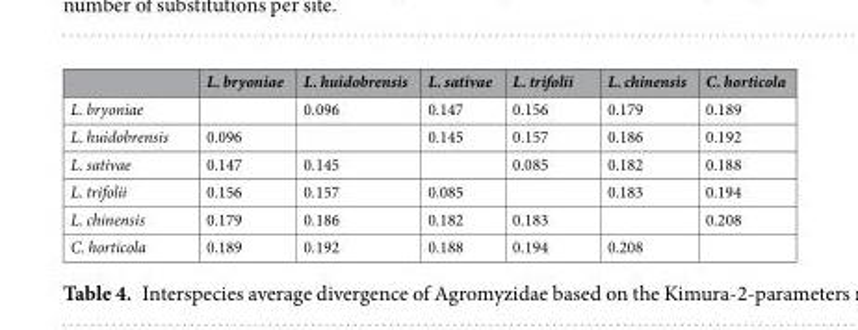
<table><thead><tr><td></td><td>L. bryoniae</td><td>L. huidobrensis</td><td>L. sativae</td><td>L. trifolii</td><td>L. chinensis</td><td>C. horticola</td></tr></thead><tbody><tr><td>L. bryoniae</td><td></td><td>0.096</td><td>0.147</td><td>0.156</td><td>0.179</td><td>0.189</td></tr><tr><td>L. huidobrensis</td><td>0.096</td><td></td><td>0.145</td><td>0.157</td><td>0.186</td><td>0.192</td></tr><tr><td>L. sativae</td><td>0.147</td><td>0.145</td><td></td><td>0.085</td><td>0.182</td><td>0.188</td></tr><tr><td>L. trifolii</td><td>0.156</td><td>0.157</td><td>0.085</td><td></td><td>0.183</td><td>0.194</td></tr><tr><td>L. chinensis</td><td>0.179</td><td>0.186</td><td>0.182</td><td>0.183</td><td></td><td>0.208</td></tr><tr><td>C. horticola</td><td>0.189</td><td>0.192</td><td>0.188</td><td>0.194</td><td>0.208</td><td></td></tr></tbody></table>